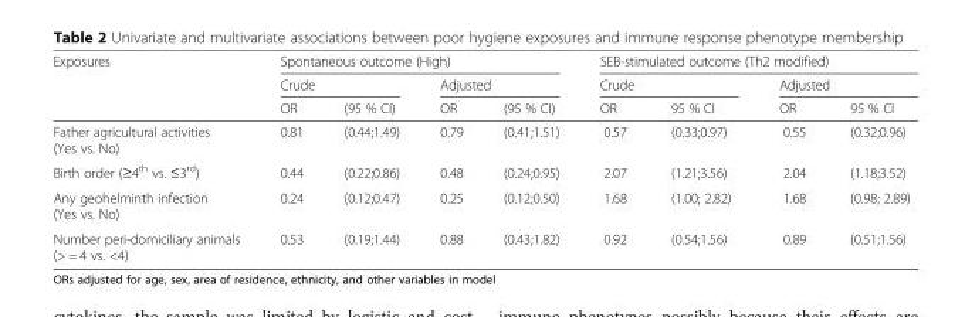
<table><thead><tr><td rowspan="3">Exposures</td><td colspan="4">Spontaneous outcome (High)</td><td colspan="4">SEB-stimulated outcome (Th2 modified)</td></tr><tr><td colspan="2">Crude</td><td colspan="2">Adjusted</td><td colspan="2">Crude</td><td colspan="2">Adjusted</td></tr><tr><td>OR</td><td>(95 % CI)</td><td>OR</td><td>(95 % CI)</td><td>OR</td><td>95 % CI</td><td>OR</td><td>95 % CI</td></tr></thead><tbody><tr><td>Father agricultural activities (Yes vs. No)</td><td>0.81</td><td>(0.44;1.49)</td><td>0.79</td><td>(0.41;1.51)</td><td>0.57</td><td>(0.33;0.97)</td><td>0.55</td><td>(0.32;0.96)</td></tr><tr><td>Birth order (≥4<sup>th</sup> vs. ≤3<sup>rd</sup>)</td><td>0.44</td><td>(0.22;0.86)</td><td>0.48</td><td>(0.24;0.95)</td><td>2.07</td><td>(1.21;3.56)</td><td>2.04</td><td>(1.18;3.52)</td></tr><tr><td>Any geohelminth infection (Yes vs. No)</td><td>0.24</td><td>(0.12;0.47)</td><td>0.25</td><td>(0.12;0.50)</td><td>1.68</td><td>(1.00; 2.82)</td><td>1.68</td><td>(0.98; 2.89)</td></tr><tr><td>Number peri-domiciliary animals (&gt; = 4 vs. &lt;4)</td><td>0.53</td><td>(0.19;1.44)</td><td>0.88</td><td>(0.43;1.82)</td><td>0.92</td><td>(0.54;1.56)</td><td>0.89</td><td>(0.51;1.56)</td></tr></tbody></table>